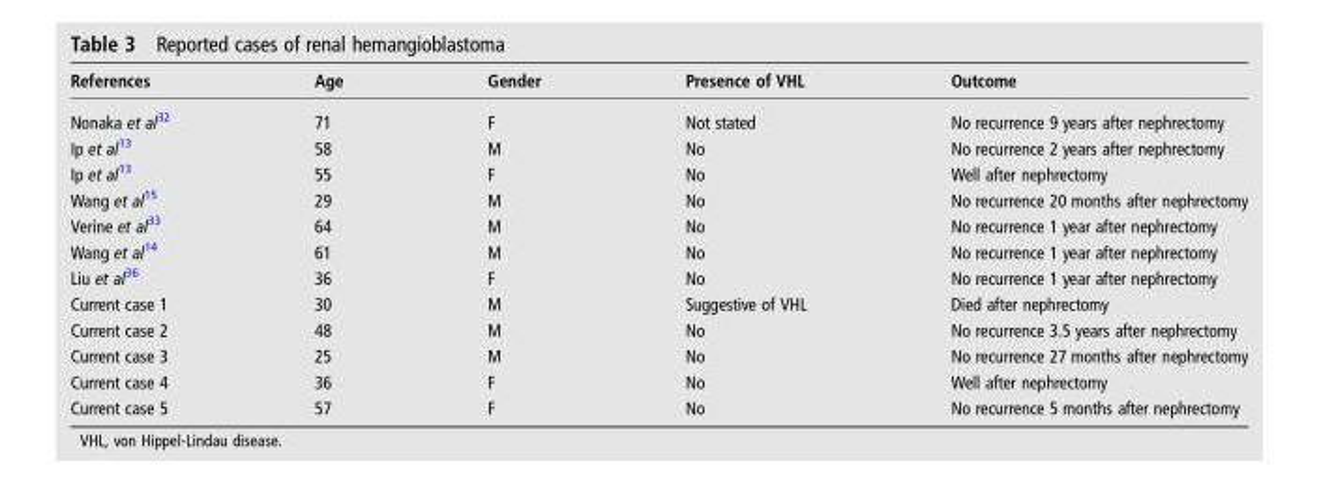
<table><thead><tr><td>References</td><td>Age</td><td>Gender</td><td>Presence of VHL</td><td>Outcome</td></tr></thead><tbody><tr><td>Nonaka et al<sup>32</sup></td><td>71</td><td>F</td><td>Not stated</td><td>No recurrence 9 years after nephrectomy</td></tr><tr><td>Ip et al<sup>13</sup></td><td>58</td><td>M</td><td>No</td><td>No recurrence 2 years after nephrectomy</td></tr><tr><td>Ip et al<sup>13</sup></td><td>55</td><td>F</td><td>No</td><td>Well after nephrectomy</td></tr><tr><td>Wang et al<sup>15</sup></td><td>29</td><td>M</td><td>No</td><td>No recurrence 20 months after nephrectomy</td></tr><tr><td>Verine et al<sup>33</sup></td><td>64</td><td>M</td><td>No</td><td>No recurrence 1 year after nephrectomy</td></tr><tr><td>Wang et al<sup>14</sup></td><td>61</td><td>M</td><td>No</td><td>No recurrence 1 year after nephrectomy</td></tr><tr><td>Liu et al<sup>36</sup></td><td>36</td><td>F</td><td>No</td><td>No recurrence 1 year after nephrectomy</td></tr><tr><td>Current case 1</td><td>30</td><td>M</td><td>Suggestive of VHL</td><td>Died after nephrectomy</td></tr><tr><td>Current case 2</td><td>48</td><td>M</td><td>No</td><td>No recurrence 3.5 years after nephrectomy</td></tr><tr><td>Current case 3</td><td>25</td><td>M</td><td>No</td><td>No recurrence 27 months after nephrectomy</td></tr><tr><td>Current case 4</td><td>36</td><td>F</td><td>No</td><td>Well after nephrectomy</td></tr><tr><td>Current case 5</td><td>57</td><td>F</td><td>No</td><td>No recurrence 5 months after nephrectomy</td></tr></tbody></table>